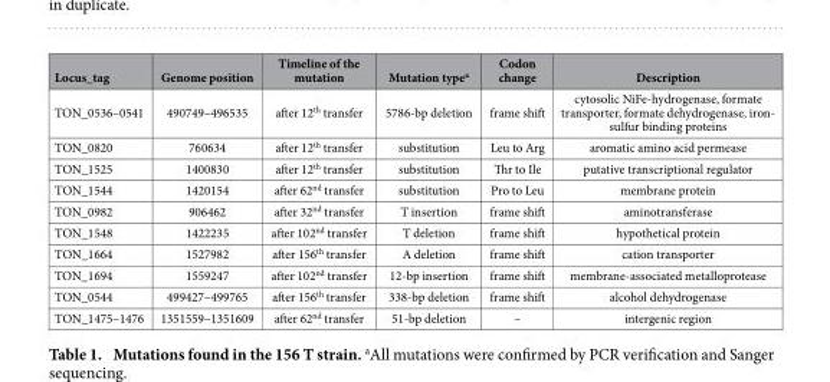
<table><thead><tr><td>Locus_tag</td><td>Genome position</td><td>Timeline of the mutation</td><td>Mutation type<sup>a</sup></td><td>Codon change</td><td>Description</td></tr></thead><tbody><tr><td>TON_0536–0541</td><td>490749–496535</td><td>after 12<sup>th</sup> transfer</td><td>5786-bp deletion</td><td>frame shift</td><td>cytosolic NiFe-hydrogenase, formate transporter, formate dehydrogenase, iron- sulfur binding proteins</td></tr><tr><td>TON_0820</td><td>760634</td><td>after 12<sup>th</sup> transfer</td><td>substitution</td><td>Leu to Arg</td><td>aromatic amino acid permease</td></tr><tr><td>TON_1525</td><td>1400830</td><td>after 12<sup>th</sup> transfer</td><td>substitution</td><td>Thr to Ile</td><td>putative transcriptional regulator</td></tr><tr><td>TON_1544</td><td>1420154</td><td>after 62<sup>nd</sup> transfer</td><td>substitution</td><td>Pro to Leu</td><td>membrane protein</td></tr><tr><td>TON_0982</td><td>906462</td><td>after 32<sup>nd</sup> transfer</td><td>T insertion</td><td>frame shift</td><td>aminotransferase</td></tr><tr><td>TON_1548</td><td>1422235</td><td>after 102<sup>nd</sup> transfer</td><td>T deletion</td><td>frame shift</td><td>hypothetical protein</td></tr><tr><td>TON_1664</td><td>1527982</td><td>after 156<sup>th</sup> transfer</td><td>A deletion</td><td>frame shift</td><td>cation transporter</td></tr><tr><td>TON_1694</td><td>1559247</td><td>after 102<sup>nd</sup> transfer</td><td>12-bp insertion</td><td>frame shift</td><td>membrane-associated metalloprotease</td></tr><tr><td>TON_0544</td><td>499427–499765</td><td>after 156<sup>th</sup> transfer</td><td>338-bp deletion</td><td>frame shift</td><td>alcohol dehydrogenase</td></tr><tr><td>TON_1475–1476</td><td>1351559–1351609</td><td>after 62<sup>nd</sup> transfer</td><td>51-bp deletion</td><td>–</td><td>intergenic region</td></tr></tbody></table>